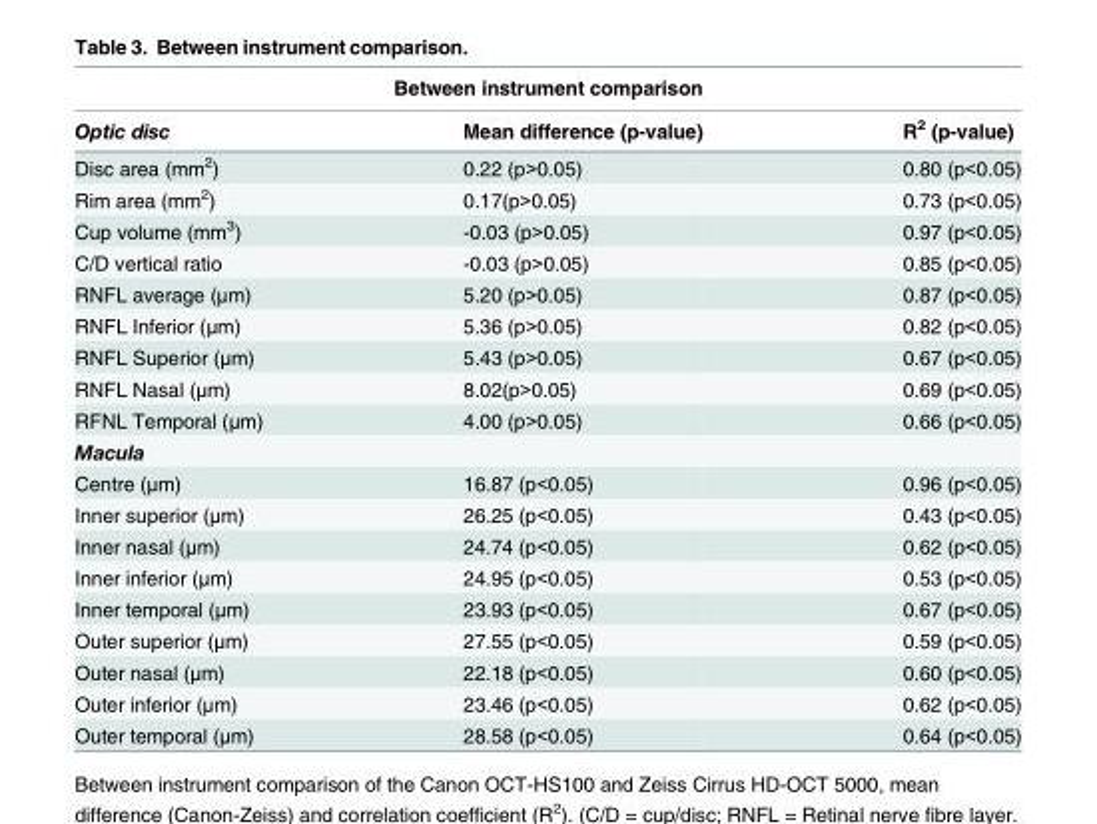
<table><thead><tr><td colspan="3">Between instrument comparison</td></tr><tr><td>Optic disc</td><td>Mean difference (p-value)</td><td>R<sup>2</sup> (p-value)</td></tr></thead><tbody><tr><td>Disc area (mm<sup>2</sup>)</td><td>0.22 (p&gt;0.05)</td><td>0.80 (p&lt;0.05)</td></tr><tr><td>Rim area (mm<sup>2</sup>)</td><td>0.17(p&gt;0.05)</td><td>0.73 (p&lt;0.05)</td></tr><tr><td>Cup volume (mm<sup>3</sup>)</td><td>-0.03 (p&gt;0.05)</td><td>0.97 (p&lt;0.05)</td></tr><tr><td>C/D vertical ratio</td><td>-0.03 (p&gt;0.05)</td><td>0.85 (p&lt;0.05)</td></tr><tr><td>RNFL average (μm)</td><td>5.20 (p&gt;0.05)</td><td>0.87 (p&lt;0.05)</td></tr><tr><td>RNFL Inferior (μm)</td><td>5.36 (p&gt;0.05)</td><td>0.82 (p&lt;0.05)</td></tr><tr><td>RNFL Superior (μm)</td><td>5.43 (p&gt;0.05)</td><td>0.67 (p&lt;0.05)</td></tr><tr><td>RNFL Nasal (μm)</td><td>8.02(p&gt;0.05)</td><td>0.69 (p&lt;0.05)</td></tr><tr><td>RFNL Temporal (μm)</td><td>4.00 (p&gt;0.05)</td><td>0.66 (p&lt;0.05)</td></tr><tr><td colspan="3">Macula</td></tr><tr><td>Centre (μm)</td><td>16.87 (p&lt;0.05)</td><td>0.96 (p&lt;0.05)</td></tr><tr><td>Inner superior (μm)</td><td>26.25 (p&lt;0.05)</td><td>0.43 (p&lt;0.05)</td></tr><tr><td>Inner nasal (μm)</td><td>24.74 (p&lt;0.05)</td><td>0.62 (p&lt;0.05)</td></tr><tr><td>Inner inferior (μm)</td><td>24.95 (p&lt;0.05)</td><td>0.53 (p&lt;0.05)</td></tr><tr><td>Inner temporal (μm)</td><td>23.93 (p&lt;0.05)</td><td>0.67 (p&lt;0.05)</td></tr><tr><td>Outer superior (μm)</td><td>27.55 (p&lt;0.05)</td><td>0.59 (p&lt;0.05)</td></tr><tr><td>Outer nasal (μm)</td><td>22.18 (p&lt;0.05)</td><td>0.60 (p&lt;0.05)</td></tr><tr><td>Outer inferior (μm)</td><td>23.46 (p&lt;0.05)</td><td>0.62 (p&lt;0.05)</td></tr><tr><td>Outer temporal (μm)</td><td>28.58 (p&lt;0.05)</td><td>0.64 (p&lt;0.05)</td></tr></tbody></table>